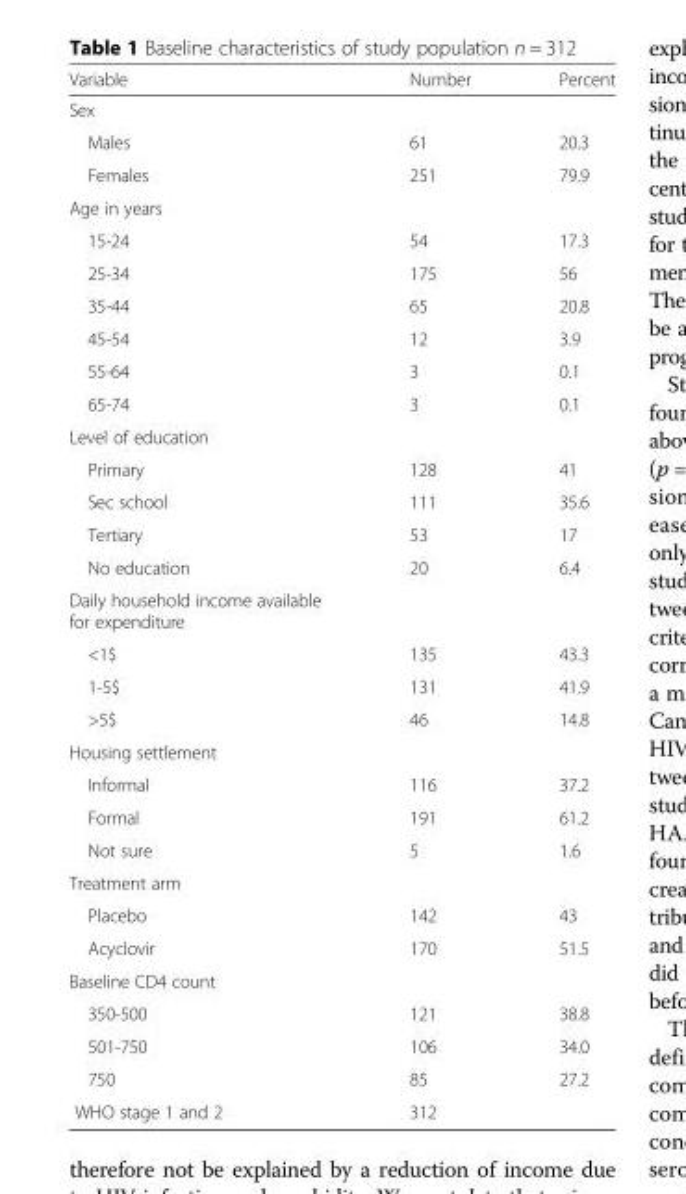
<table><thead><tr><td>Variable</td><td>Number</td><td>Percent</td></tr></thead><tbody><tr><td colspan="3">Sex</td></tr><tr><td>Males</td><td>61</td><td>20.3</td></tr><tr><td>Females</td><td>251</td><td>79.9</td></tr><tr><td colspan="3">Age in years</td></tr><tr><td>15-24</td><td>54</td><td>17.3</td></tr><tr><td>25-34</td><td>175</td><td>56</td></tr><tr><td>35-44</td><td>65</td><td>20.8</td></tr><tr><td>45-54</td><td>12</td><td>3.9</td></tr><tr><td>55-64</td><td>3</td><td>0.1</td></tr><tr><td>65-74</td><td>3</td><td>0.1</td></tr><tr><td colspan="3">Level of education</td></tr><tr><td>Primary</td><td>128</td><td>41</td></tr><tr><td>Sec school</td><td>111</td><td>35.6</td></tr><tr><td>Tertiary</td><td>53</td><td>17</td></tr><tr><td>No education</td><td>20</td><td>6.4</td></tr><tr><td colspan="3">Daily household income available for expenditure</td></tr><tr><td>&lt;1$</td><td>135</td><td>43.3</td></tr><tr><td>1-5$</td><td>131</td><td>41.9</td></tr><tr><td>&gt;5$</td><td>46</td><td>14.8</td></tr><tr><td colspan="3">Housing settlement</td></tr><tr><td>Informal</td><td>116</td><td>37.2</td></tr><tr><td>Formal</td><td>191</td><td>61.2</td></tr><tr><td>Not sure</td><td>5</td><td>1.6</td></tr><tr><td colspan="3">Treatment arm</td></tr><tr><td>Placebo</td><td>142</td><td>43</td></tr><tr><td>Acyclovir</td><td>170</td><td>51.5</td></tr><tr><td colspan="3">Baseline CD4 count</td></tr><tr><td>350-500</td><td>121</td><td>38.8</td></tr><tr><td>501-750</td><td>106</td><td>34.0</td></tr><tr><td>750</td><td>85</td><td>27.2</td></tr><tr><td>WHO stage 1 and 2</td><td>312</td><td></td></tr></tbody></table>